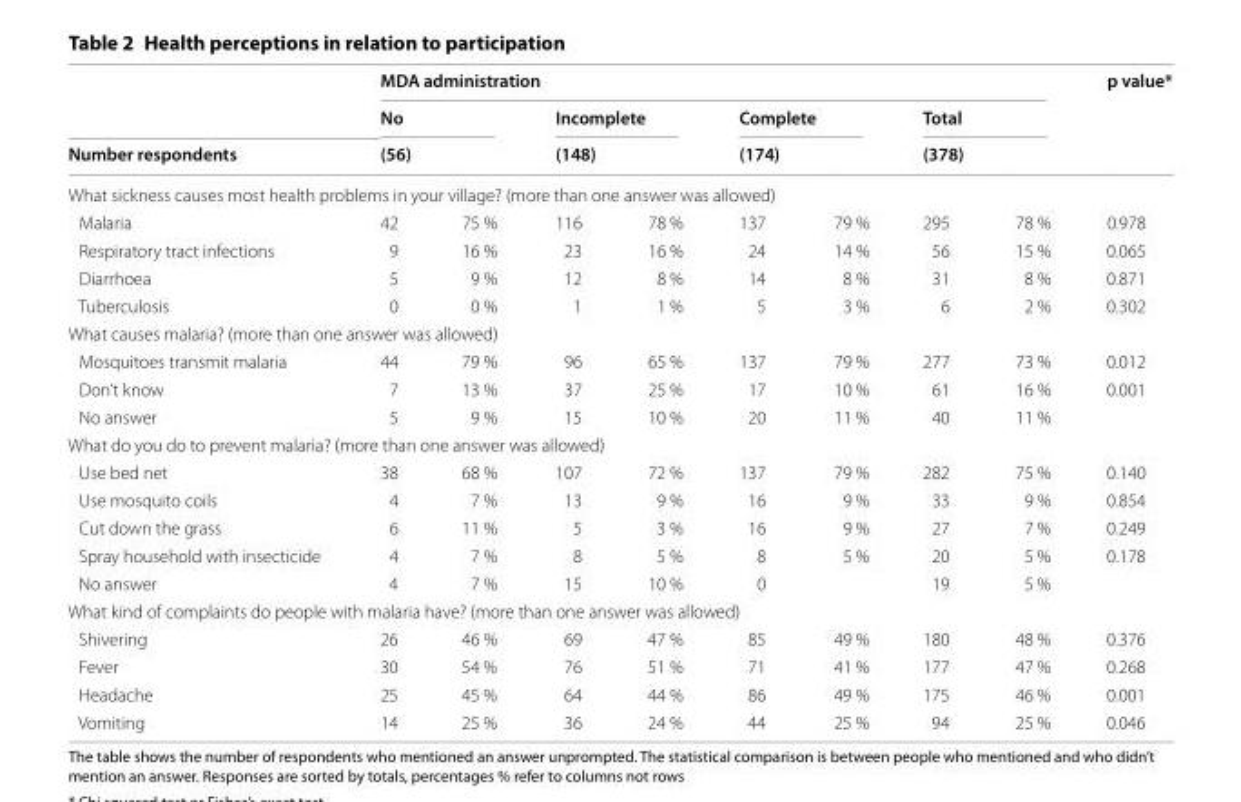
<table><thead><tr><td rowspan="3">Number respondents</td><td colspan="8">MDA administration</td><td rowspan="3">p value*</td></tr><tr><td rowspan="2" colspan="2">No (56)</td><td rowspan="2" colspan="2">Incomplete (148)</td><td rowspan="2" colspan="2">Complete (174)</td><td rowspan="2" colspan="2">Total (378)</td></tr><tr></tr><tr><td colspan="10">What sickness causes most health problems in your village? (more than one answer was allowed)</td></tr><tr><td>Malaria</td><td>42</td><td>75 %</td><td>116</td><td>78 %</td><td>137</td><td>79 %</td><td>295</td><td>78 %</td><td>0.978</td></tr></thead><tbody><tr><td>Respiratory tract infections</td><td>9</td><td>16 %</td><td>23</td><td>16 %</td><td>24</td><td>14 %</td><td>56</td><td>15 %</td><td>0.065</td></tr><tr><td>Diarrhoea</td><td>5</td><td>9 %</td><td>12</td><td>8 %</td><td>14</td><td>8 %</td><td>31</td><td>8 %</td><td>0.871</td></tr><tr><td>Tuberculosis</td><td>0</td><td>0 %</td><td>1</td><td>1 %</td><td>5</td><td>3 %</td><td>6</td><td>2 %</td><td>0.302</td></tr><tr><td colspan="10">What causes malaria? (more than one answer was allowed)</td></tr><tr><td>Mosquitoes transmit malaria</td><td>44</td><td>79 %</td><td>96</td><td>65 %</td><td>137</td><td>79 %</td><td>277</td><td>73 %</td><td>0.012</td></tr><tr><td>Don’t know</td><td>7</td><td>13 %</td><td>37</td><td>25 %</td><td>17</td><td>10 %</td><td>61</td><td>16 %</td><td>0.001</td></tr><tr><td>No answer</td><td>5</td><td>9 %</td><td>15</td><td>10 %</td><td>20</td><td>11 %</td><td>40</td><td>11 %</td><td></td></tr><tr><td colspan="10">What do you do to prevent malaria? (more than one answer was allowed)</td></tr><tr><td>Use bed net</td><td>38</td><td>68 %</td><td>107</td><td>72 %</td><td>137</td><td>79 %</td><td>282</td><td>75 %</td><td>0.140</td></tr><tr><td>Use mosquito coils</td><td>4</td><td>7 %</td><td>13</td><td>9 %</td><td>16</td><td>9 %</td><td>33</td><td>9 %</td><td>0.854</td></tr><tr><td>Cut down the grass</td><td>6</td><td>11 %</td><td>5</td><td>3 %</td><td>16</td><td>9 %</td><td>27</td><td>7 %</td><td>0.249</td></tr><tr><td>Spray household with insecticide</td><td>4</td><td>7 %</td><td>8</td><td>5 %</td><td>8</td><td>5 %</td><td>20</td><td>5 %</td><td>0.178</td></tr><tr><td>No answer</td><td>4</td><td>7 %</td><td>15</td><td>10 %</td><td>0</td><td></td><td>19</td><td>5 %</td><td></td></tr><tr><td colspan="10">What kind of complaints do people with malaria have? (more than one answer was allowed)</td></tr><tr><td>Shivering</td><td>26</td><td>46 %</td><td>69</td><td>47 %</td><td>85</td><td>49 %</td><td>180</td><td>48 %</td><td>0.376</td></tr><tr><td>Fever</td><td>30</td><td>54 %</td><td>76</td><td>51 %</td><td>71</td><td>41 %</td><td>177</td><td>47 %</td><td>0.268</td></tr><tr><td>Headache</td><td>25</td><td>45 %</td><td>64</td><td>44 %</td><td>86</td><td>49 %</td><td>175</td><td>46 %</td><td>0.001</td></tr><tr><td>Vomiting</td><td>14</td><td>25 %</td><td>36</td><td>24 %</td><td>44</td><td>25 %</td><td>94</td><td>25 %</td><td>0.046</td></tr></tbody></table>